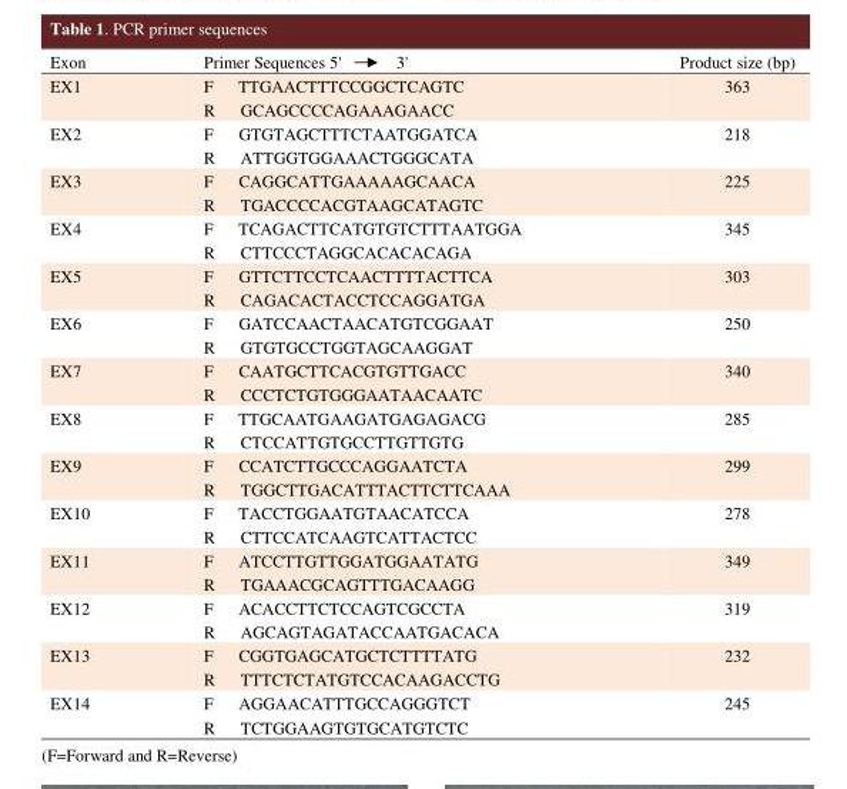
<table><thead><tr><td>Exon</td><td>Primer Sequences 5&#x27; 3&#x27;</td><td>Product size (bp)</td></tr></thead><tbody><tr><td rowspan="2">EX1</td><td>F TTGAACTTTCCGGCTCAGTC</td><td rowspan="2">363</td></tr><tr><td>R GCAGCCCCAGAAAGAACC</td></tr><tr><td rowspan="2">EX2</td><td>F GTGTAGCTTTCTAATGGATCA</td><td rowspan="2">218</td></tr><tr><td>R ATTGGTGGAAACTGGGCATA</td></tr><tr><td rowspan="2">EX3</td><td>F CAGGCATTGAAAAAGCAACA</td><td rowspan="2">225</td></tr><tr><td>R TGACCCCACGTAAGCATAGTC</td></tr><tr><td rowspan="2">EX4</td><td>F TCAGACTTCATGTGTCTTTAATGGA</td><td rowspan="2">345</td></tr><tr><td>R CTTCCCTAGGCACACACAGA</td></tr><tr><td rowspan="2">EX5</td><td>F GTTCTTCCTCAACTTTTACTTCA</td><td rowspan="2">303</td></tr><tr><td>R CAGACACTACCTCCAGGATGA</td></tr><tr><td rowspan="2">EX6</td><td>F GATCCAACTAACATGTCGGAAT</td><td rowspan="2">250</td></tr><tr><td>R GTGTGCCTGGTAGCAAGGAT</td></tr><tr><td rowspan="2">EX7</td><td>F CAATGCTTCACGTGTTGACC</td><td rowspan="2">340</td></tr><tr><td>R CCCTCTGTGGGAATAACAATC</td></tr><tr><td rowspan="2">EX8</td><td>F TTGCAATGAAGATGAGAGACG</td><td rowspan="2">285</td></tr><tr><td>R CTCCATTGTGCCTTGTTGTG</td></tr><tr><td rowspan="2">EX9</td><td>F CCATCTTGCCCAGGAATCTA</td><td rowspan="2">299</td></tr><tr><td>R TGGCTTGACATTTACTTCTTCAAA</td></tr><tr><td rowspan="2">EX10</td><td>F TACCTGGAATGTAACATCCA</td><td rowspan="2">278</td></tr><tr><td>R CTTCCATCAAGTCATTACTCC</td></tr><tr><td rowspan="2">EX11</td><td>F ATCCTTGTTGGATGGAATATG</td><td rowspan="2">349</td></tr><tr><td>R TGAAACGCAGTTTGACAAGG</td></tr><tr><td rowspan="2">EX12</td><td>F ACACCTTCTCCAGTCGCCTA</td><td rowspan="2">319</td></tr><tr><td>R AGCAGTAGATACCAATGACACA</td></tr><tr><td rowspan="2">EX13</td><td>F CGGTGAGCATGCTCTTTTATG</td><td rowspan="2">232</td></tr><tr><td>R TTTCTCTATGTCCACAAGACCTG</td></tr><tr><td rowspan="2">EX14</td><td>F AGGAACATTTGCCAGGGTCT</td><td rowspan="2">245</td></tr><tr><td>R TCTGGAAGTGTGCATGTCTC</td></tr></tbody></table>